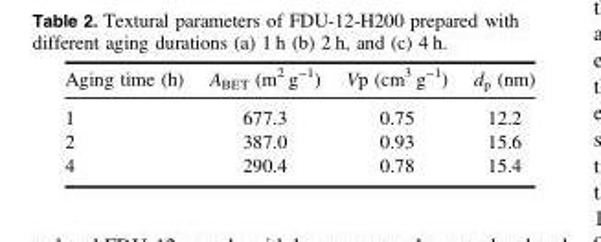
<table><thead><tr><td>Aging time (h)</td><td>A<sub>BET</sub> (m<sup>2</sup> g<sup>−1</sup>)</td><td>Vp (cm<sup>3</sup> g<sup>−1</sup>)</td><td>d<sub>p</sub> (nm)</td></tr></thead><tbody><tr><td>1</td><td>677.3</td><td>0.75</td><td>12.2</td></tr><tr><td>2</td><td>387.0</td><td>0.93</td><td>15.6</td></tr><tr><td>4</td><td>290.4</td><td>0.78</td><td>15.4</td></tr></tbody></table>